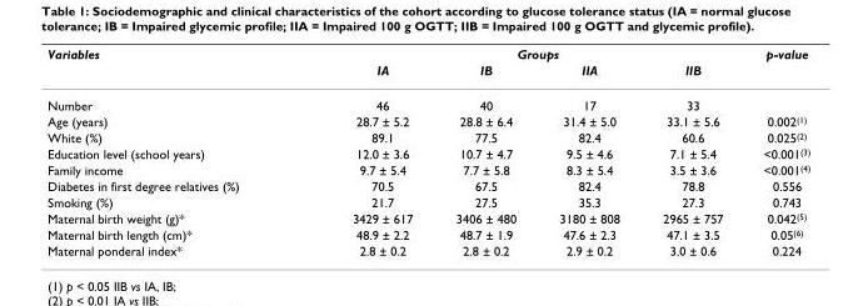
<table><thead><tr><td rowspan="2">Variables</td><td colspan="4">Groups</td><td rowspan="2">p-value</td></tr><tr><td>IA</td><td>IB</td><td>IIA</td><td>IIB</td></tr></thead><tbody><tr><td>Number</td><td>46</td><td>40</td><td>17</td><td>33</td><td></td></tr><tr><td>Age (years)</td><td>28.7 ± 5.2</td><td>28.8 ± 6.4</td><td>31.4 ± 5.0</td><td>33.1 ± 5.6</td><td>0.002<sup>(1)</sup></td></tr><tr><td>White (%)</td><td>89.1</td><td>77.5</td><td>82.4</td><td>60.6</td><td>0.025<sup>(2)</sup></td></tr><tr><td>Education level (school years)</td><td>12.0 ± 3.6</td><td>10.7 ± 4.7</td><td>9.5 ± 4.6</td><td>7.1 ± 5.4</td><td>&lt;0.001<sup>(3)</sup></td></tr><tr><td>Family income</td><td>9.7 ± 5.4</td><td>7.7 ± 5.8</td><td>8.3 ± 5.4</td><td>3.5 ± 3.6</td><td>&lt;0.001<sup>(4)</sup></td></tr><tr><td>Diabetes in first degree relatives (%)</td><td>70.5</td><td>67.5</td><td>82.4</td><td>78.8</td><td>0.556</td></tr><tr><td>Smoking (%)</td><td>21.7</td><td>27.5</td><td>35.3</td><td>27.3</td><td>0.743</td></tr><tr><td>Maternal birth weight (g)*</td><td>3429 ± 617</td><td>3406 ± 480</td><td>3180 ± 808</td><td>2965 ± 757</td><td>0.042<sup>(5)</sup></td></tr><tr><td>Maternal birth length (cm)*</td><td>48.9 ± 2.2</td><td>48.7 ± 1.9</td><td>47.6 ± 2.3</td><td>47.1 ± 3.5</td><td>0.05<sup>(6)</sup></td></tr><tr><td>Maternal ponderal index*</td><td>2.8 ± 0.2</td><td>2.8 ± 0.2</td><td>2.9 ± 0.2</td><td>3.0 ± 0.6</td><td>0.224</td></tr></tbody></table>